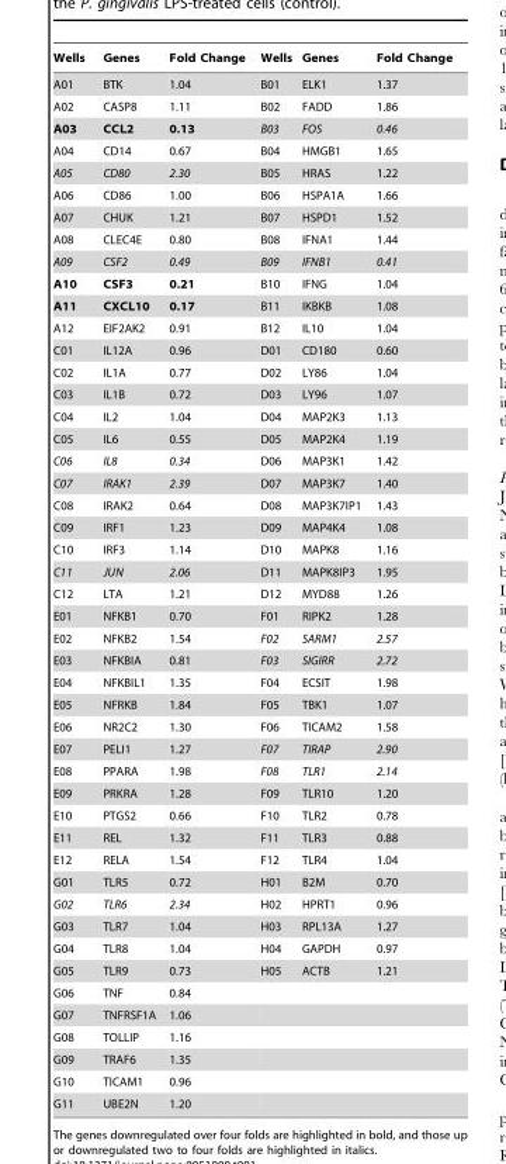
<table><thead><tr><td>Wells</td><td>Genes</td><td>Fold Change</td><td>Wells</td><td>Genes</td><td>Fold Change</td></tr></thead><tbody><tr><td>A01</td><td>BTK</td><td>1.04</td><td>B01</td><td>ELK1</td><td>1.37</td></tr><tr><td>A02</td><td>CASP8</td><td>1.11</td><td>B02</td><td>FADD</td><td>1.86</td></tr><tr><td>A03</td><td>CCL2</td><td>0.13</td><td>B03</td><td>FOS</td><td>0.46</td></tr><tr><td>A04</td><td>CD14</td><td>0.67</td><td>B04</td><td>HMGB1</td><td>1.65</td></tr><tr><td>A05</td><td>CD80</td><td>2.30</td><td>B05</td><td>HRAS</td><td>1.22</td></tr><tr><td>A06</td><td>CD86</td><td>1.00</td><td>B06</td><td>HSPA1A</td><td>1.66</td></tr><tr><td>A07</td><td>CHUK</td><td>1.21</td><td>B07</td><td>HSPD1</td><td>1.52</td></tr><tr><td>A08</td><td>CLEC4E</td><td>0.80</td><td>B08</td><td>IFNA1</td><td>1.44</td></tr><tr><td>A09</td><td>CSF2</td><td>0.49</td><td>B09</td><td>IFNB1</td><td>0.41</td></tr><tr><td>A10</td><td>CSF3</td><td>0.21</td><td>B10</td><td>IFNG</td><td>1.04</td></tr><tr><td>A11</td><td>CXCL10</td><td>0.17</td><td>B11</td><td>IKBKB</td><td>1.08</td></tr><tr><td>A12</td><td>EIF2AK2</td><td>0.91</td><td>B12</td><td>IL10</td><td>1.04</td></tr><tr><td>C01</td><td>IL12A</td><td>0.96</td><td>D01</td><td>CD180</td><td>0.60</td></tr><tr><td>C02</td><td>IL1A</td><td>0.77</td><td>D02</td><td>LY86</td><td>1.04</td></tr><tr><td>C03</td><td>IL1B</td><td>0.72</td><td>D03</td><td>LY96</td><td>1.07</td></tr><tr><td>C04</td><td>IL2</td><td>1.04</td><td>D04</td><td>MAP2K3</td><td>1.13</td></tr><tr><td>C05</td><td>IL6</td><td>0.55</td><td>D05</td><td>MAP2K4</td><td>1.19</td></tr><tr><td>C06</td><td>IL8</td><td>0.34</td><td>D06</td><td>MAP3K1</td><td>1.42</td></tr><tr><td>C07</td><td>IRAK1</td><td>2.39</td><td>D07</td><td>MAP3K7</td><td>1.40</td></tr><tr><td>C08</td><td>IRAK2</td><td>0.64</td><td>D08</td><td>MAP3K7IP1</td><td>1.43</td></tr><tr><td>C09</td><td>IRF1</td><td>1.23</td><td>D09</td><td>MAP4K4</td><td>1.08</td></tr><tr><td>C10</td><td>IRF3</td><td>1.14</td><td>D10</td><td>MAPK8</td><td>1.16</td></tr><tr><td>C11</td><td>JUN</td><td>2.06</td><td>D11</td><td>MAPK8IP3</td><td>1.95</td></tr><tr><td>C12</td><td>LTA</td><td>1.21</td><td>D12</td><td>MYD88</td><td>1.26</td></tr><tr><td>E01</td><td>NFKB1</td><td>0.70</td><td>F01</td><td>RIPK2</td><td>1.28</td></tr><tr><td>E02</td><td>NFKB2</td><td>1.54</td><td>F02</td><td>SARM1</td><td>2.57</td></tr><tr><td>E03</td><td>NFKBIA</td><td>0.81</td><td>F03</td><td>SIGIRR</td><td>2.72</td></tr><tr><td>E04</td><td>NFKBIL1</td><td>1.35</td><td>F04</td><td>ECSIT</td><td>1.98</td></tr><tr><td>E05</td><td>NFRKB</td><td>1.84</td><td>F05</td><td>TBK1</td><td>1.07</td></tr><tr><td>E06</td><td>NR2C2</td><td>1.30</td><td>F06</td><td>TICAM2</td><td>1.58</td></tr><tr><td>E07</td><td>PELI1</td><td>1.27</td><td>F07</td><td>TIRAP</td><td>2.90</td></tr><tr><td>E08</td><td>PPARA</td><td>1.98</td><td>F08</td><td>TLR1</td><td>2.14</td></tr><tr><td>E09</td><td>PRKRA</td><td>1.28</td><td>F09</td><td>TLR10</td><td>1.20</td></tr><tr><td>E10</td><td>PTGS2</td><td>0.66</td><td>F10</td><td>TLR2</td><td>0.78</td></tr><tr><td>E11</td><td>REL</td><td>1.32</td><td>F11</td><td>TLR3</td><td>0.88</td></tr><tr><td>E12</td><td>RELA</td><td>1.54</td><td>F12</td><td>TLR4</td><td>1.04</td></tr><tr><td>G01</td><td>TLR5</td><td>0.72</td><td>H01</td><td>B2M</td><td>0.70</td></tr><tr><td>G02</td><td>TLR6</td><td>2.34</td><td>H02</td><td>HPRT1</td><td>0.96</td></tr><tr><td>G03</td><td>TLR7</td><td>1.04</td><td>H03</td><td>RPL13A</td><td>1.27</td></tr><tr><td>G04</td><td>TLR8</td><td>1.04</td><td>H04</td><td>GAPDH</td><td>0.97</td></tr><tr><td>G05</td><td>TLR9</td><td>0.73</td><td>H05</td><td>ACTB</td><td>1.21</td></tr><tr><td>G06</td><td>TNF</td><td>0.84</td><td></td><td></td><td></td></tr><tr><td>G07</td><td>TNFRSF1A</td><td>1.06</td><td></td><td></td><td></td></tr><tr><td>G08</td><td>TOLLIP</td><td>1.16</td><td></td><td></td><td></td></tr><tr><td>G09</td><td>TRAF6</td><td>1.35</td><td></td><td></td><td></td></tr><tr><td>G10</td><td>TICAM1</td><td>0.96</td><td></td><td></td><td></td></tr><tr><td>G11</td><td>UBE2N</td><td>1.20</td><td></td><td></td><td></td></tr></tbody></table>